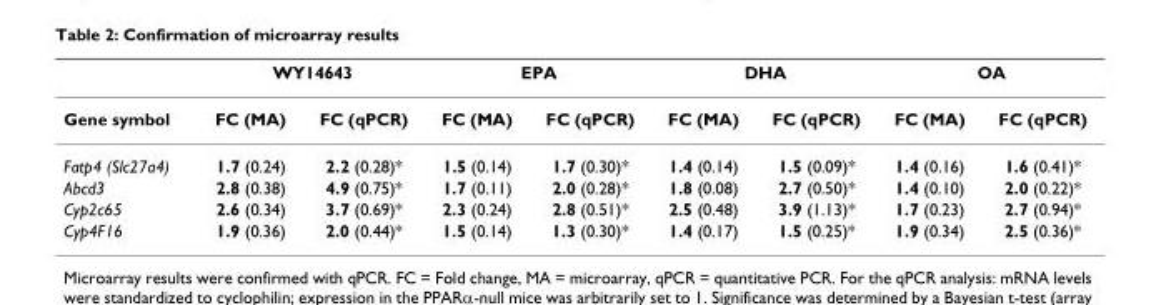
<table><thead><tr><td rowspan="2">Gene symbol</td><td colspan="2">WY14643</td><td colspan="2">EPA</td><td colspan="2">DHA</td><td colspan="2">OA</td></tr><tr><td>FC (MA)</td><td>FC (qPCR)</td><td>FC (MA)</td><td>FC (qPCR)</td><td>FC (MA)</td><td>FC (qPCR)</td><td>FC (MA)</td><td>FC (qPCR)</td></tr></thead><tbody><tr><td>Fatp4 (Slc27a4)</td><td>1.7 (0.24)</td><td>2.2 (0.28)*</td><td>1.5 (0.14)</td><td>1.7 (0.30)*</td><td>1.4 (0.14)</td><td>1.5 (0.09)*</td><td>1.4 (0.16)</td><td>1.6 (0.41)*</td></tr><tr><td>Abcd3</td><td>2.8 (0.38)</td><td>4.9 (0.75)*</td><td>1.7 (0.11)</td><td>2.0 (0.28)*</td><td>1.8 (0.08)</td><td>2.7 (0.50)*</td><td>1.4 (0.10)</td><td>2.0 (0.22)*</td></tr><tr><td>Cyp2c65</td><td>2.6 (0.34)</td><td>3.7 (0.69)*</td><td>2.3 (0.24)</td><td>2.8 (0.51)*</td><td>2.5 (0.48)</td><td>3.9 (1.13)*</td><td>1.7 (0.23)</td><td>2.7 (0.94)*</td></tr><tr><td>Cyp4F16</td><td>1.9 (0.36)</td><td>2.0 (0.44)*</td><td>1.5 (0.14)</td><td>1.3 (0.30)*</td><td>1.4 (0.17)</td><td>1.5 (0.25)*</td><td>1.9 (0.34)</td><td>2.5 (0.36)*</td></tr></tbody></table>